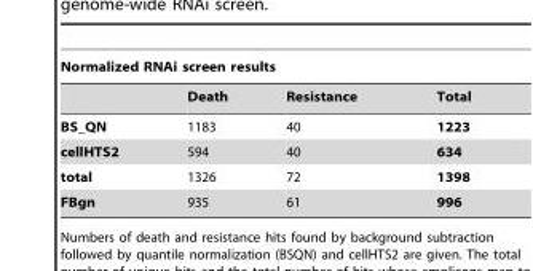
<table><thead><tr><td colspan="4">Normalized RNAi screen results</td></tr><tr><td></td><td>Death</td><td>Resistance</td><td>Total</td></tr></thead><tbody><tr><td>BS_QN</td><td>1183</td><td>40</td><td>1223</td></tr><tr><td>cellHTS2</td><td>594</td><td>40</td><td>634</td></tr><tr><td>total</td><td>1326</td><td>72</td><td>1398</td></tr><tr><td>FBgn</td><td>935</td><td>61</td><td>996</td></tr></tbody></table>